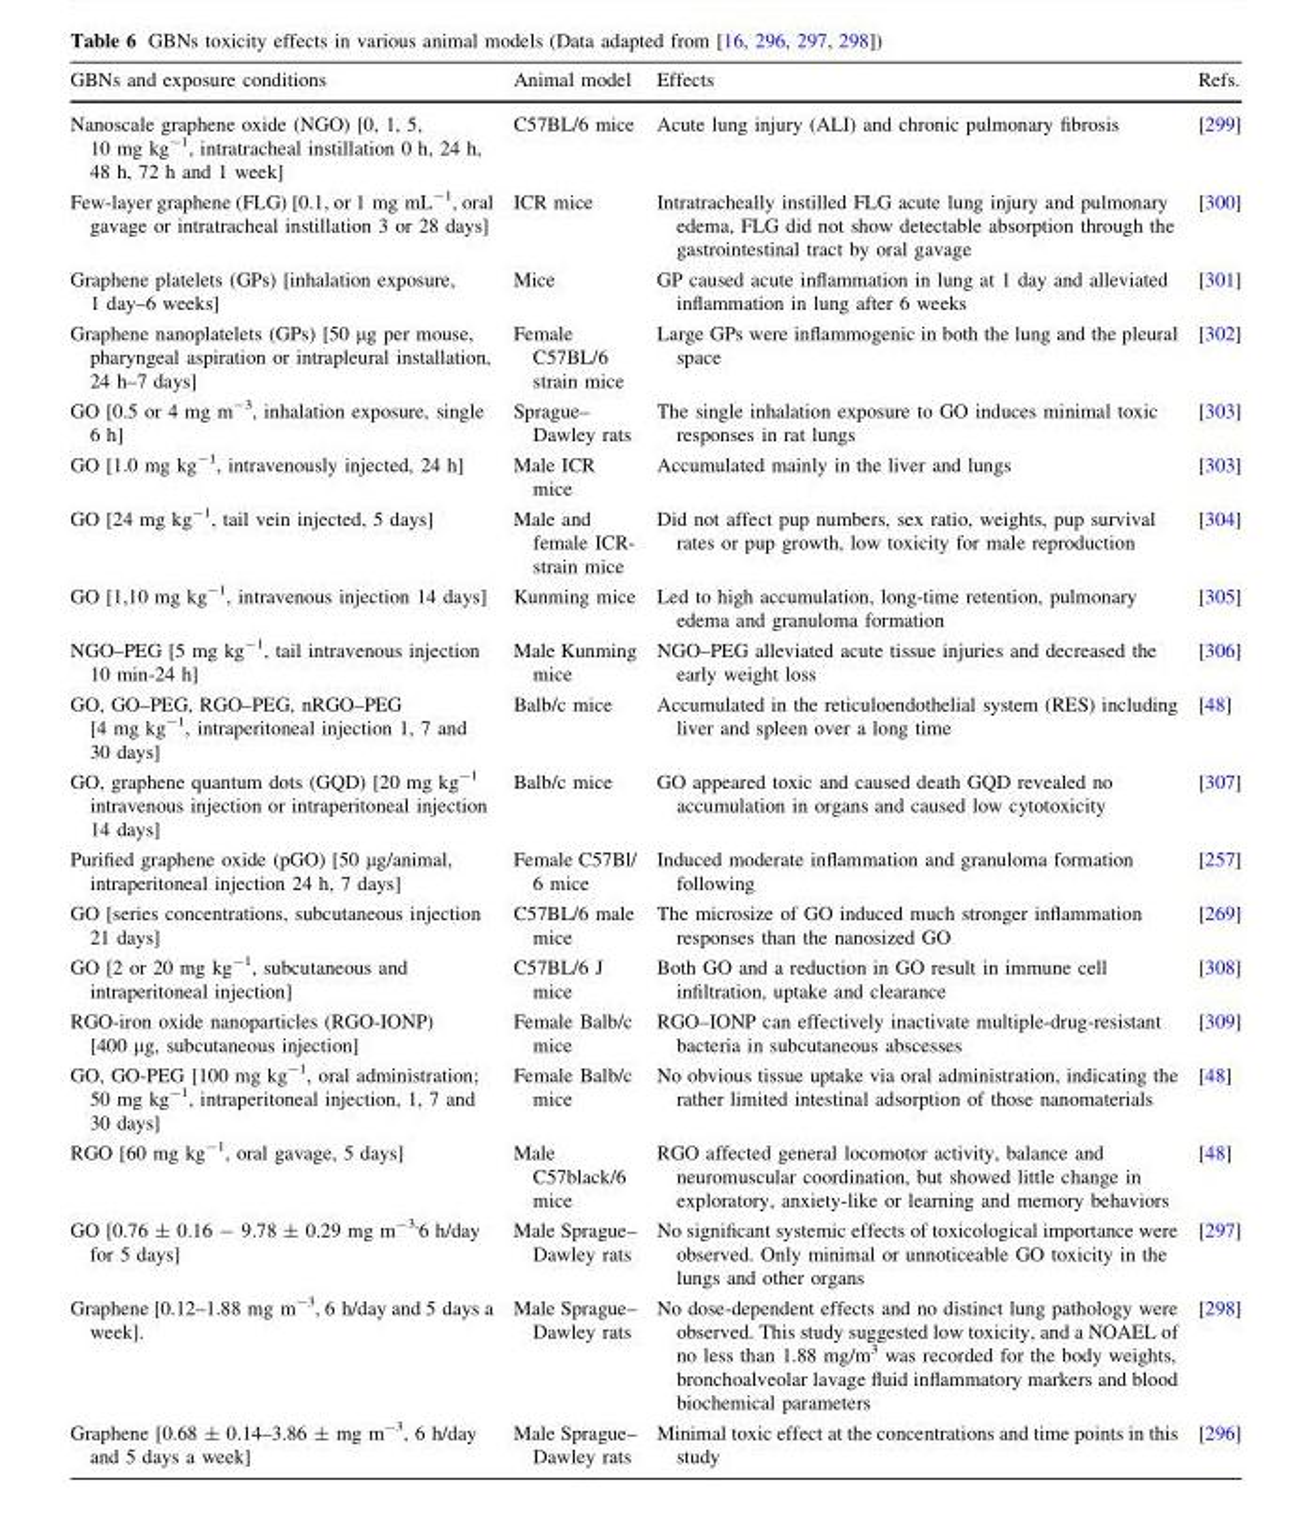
<table><thead><tr><td>GBNs and exposure conditions</td><td>Animal model</td><td>Effects</td><td>Refs.</td></tr></thead><tbody><tr><td>Nanoscale graphene oxide (NGO) [0, 1, 5, 10 mg kg<sup>-1</sup>, intratracheal instillation 0 h, 24 h, 48 h, 72 h and 1 week]</td><td>C57BL/6 mice</td><td>Acute lung injury (ALI) and chronic pulmonary fibrosis</td><td>[299]</td></tr><tr><td>Few-layer graphene (FLG) [0.1, or 1 mg mL<sup>-1</sup>, oral gavage or intratracheal instillation 3 or 28 days]</td><td>ICR mice</td><td>Intratracheally instilled FLG acute lung injury and pulmonary edema, FLG did not show detectable absorption through the gastrointestinal tract by oral gavage</td><td>[300]</td></tr><tr><td>Graphene platelets (GPs) [inhalation exposure, 1 day–6 weeks]</td><td>Mice</td><td>GP caused acute inflammation in lung at 1 day and alleviated inflammation in lung after 6 weeks</td><td>[301]</td></tr><tr><td>Graphene nanoplatelets (GPs) [50 μg per mouse, pharyngeal aspiration or intrapleural installation, 24 h–7 days]</td><td>Female C57BL/6 strain mice</td><td>Large GPs were inflammogenic in both the lung and the pleural space</td><td>[302]</td></tr><tr><td>GO [0.5 or 4 mg m<sup>-3</sup>, inhalation exposure, single 6 h]</td><td>Sprague– Dawley rats</td><td>The single inhalation exposure to GO induces minimal toxic responses in rat lungs</td><td>[303]</td></tr><tr><td>GO [1.0 mg kg<sup>-1</sup>, intravenously injected, 24 h]</td><td>Male ICR mice</td><td>Accumulated mainly in the liver and lungs</td><td>[303]</td></tr><tr><td>GO [24 mg kg<sup>-1</sup>, tail vein injected, 5 days]</td><td>Male and female ICR- strain mice</td><td>Did not affect pup numbers, sex ratio, weights, pup survival rates or pup growth, low toxicity for male reproduction</td><td>[304]</td></tr><tr><td>GO [1,10 mg kg<sup>-1</sup>, intravenous injection 14 days]</td><td>Kunming mice</td><td>Led to high accumulation, long-time retention, pulmonary edema and granuloma formation</td><td>[305]</td></tr><tr><td>NGO–PEG [5 mg kg<sup>-1</sup>, tail intravenous injection 10 min-24 h]</td><td>Male Kunming mice</td><td>NGO–PEG alleviated acute tissue injuries and decreased the early weight loss</td><td>[306]</td></tr><tr><td>GO, GO–PEG, RGO–PEG, nRGO–PEG [4 mg kg<sup>-1</sup>, intraperitoneal injection 1, 7 and 30 days]</td><td>Balb/c mice</td><td>Accumulated in the reticuloendothelial system (RES) including liver and spleen over a long time</td><td>[48]</td></tr><tr><td>GO, graphene quantum dots (GQD) [20 mg kg<sup>-1</sup> intravenous injection or intraperitoneal injection 14 days]</td><td>Balb/c mice</td><td>GO appeared toxic and caused death GQD revealed no accumulation in organs and caused low cytotoxicity</td><td>[307]</td></tr><tr><td>Purified graphene oxide (pGO) [50 μg/animal, intraperitoneal injection 24 h, 7 days]</td><td>Female C57Bl/ 6 mice</td><td>Induced moderate inflammation and granuloma formation following</td><td>[257]</td></tr><tr><td>GO [series concentrations, subcutaneous injection 21 days]</td><td>C57BL/6 male mice</td><td>The microsize of GO induced much stronger inflammation responses than the nanosized GO</td><td>[269]</td></tr><tr><td>GO [2 or 20 mg kg<sup>-1</sup>, subcutaneous and intraperitoneal injection]</td><td>C57BL/6 J mice</td><td>Both GO and a reduction in GO result in immune cell infiltration, uptake and clearance</td><td>[308]</td></tr><tr><td>RGO-iron oxide nanoparticles (RGO-IONP) [400 μg, subcutaneous injection]</td><td>Female Balb/c mice</td><td>RGO–IONP can effectively inactivate multiple-drug-resistant bacteria in subcutaneous abscesses</td><td>[309]</td></tr><tr><td>GO, GO-PEG [100 mg kg<sup>-1</sup>, oral administration; 50 mg kg<sup>-1</sup>, intraperitoneal injection, 1, 7 and 30 days]</td><td>Female Balb/c mice</td><td>No obvious tissue uptake via oral administration, indicating the rather limited intestinal adsorption of those nanomaterials</td><td>[48]</td></tr><tr><td>RGO [60 mg kg<sup>-1</sup>, oral gavage, 5 days]</td><td>Male C57black/6 mice</td><td>RGO affected general locomotor activity, balance and neuromuscular coordination, but showed little change in exploratory, anxiety-like or learning and memory behaviors</td><td>[48]</td></tr><tr><td>GO [0.76 ± 0.16 - 9.78 ± 0.29 mg m<sup>-3,</sup>6 h/day for 5 days]</td><td>Male Sprague– Dawley rats</td><td>No significant systemic effects of toxicological importance were observed. Only minimal or unnoticeable GO toxicity in the lungs and other organs</td><td>[297]</td></tr><tr><td>Graphene [0.12–1.88 mg m<sup>-3</sup>, 6 h/day and 5 days a week].</td><td>Male Sprague– Dawley rats</td><td>No dose-dependent effects and no distinct lung pathology were observed. This study suggested low toxicity, and a NOAEL of no less than 1.88 mg/m<sup>3</sup> was recorded for the body weights, bronchoalveolar lavage fluid inflammatory markers and blood biochemical parameters</td><td>[298]</td></tr><tr><td>Graphene [0.68 ± 0.14–3.86 ± mg m<sup>-3</sup>, 6 h/day and 5 days a week]</td><td>Male Sprague– Dawley rats</td><td>Minimal toxic effect at the concentrations and time points in this study</td><td>[296]</td></tr></tbody></table>